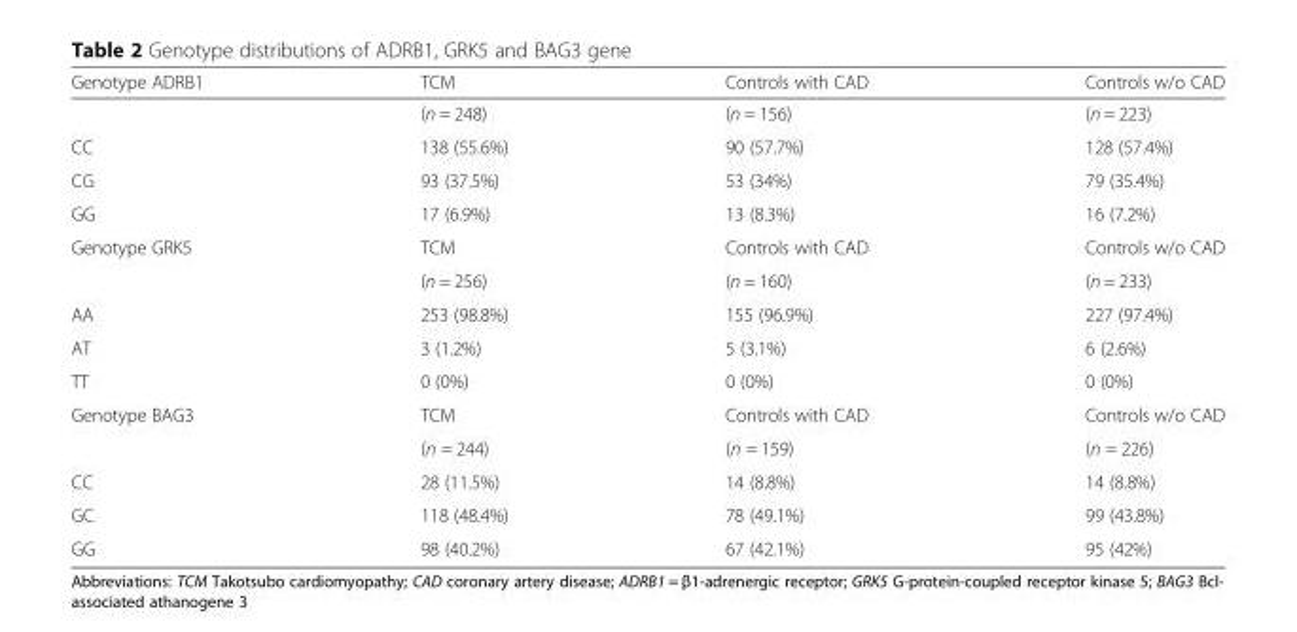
<table><thead><tr><td>Genotype ADRB1</td><td>TCM</td><td>Controls with CAD</td><td>Controls w/o CAD</td></tr></thead><tbody><tr><td></td><td>(n = 248)</td><td>(n = 156)</td><td>(n = 223)</td></tr><tr><td>CC</td><td>138 (55.6%)</td><td>90 (57.7%)</td><td>128 (57.4%)</td></tr><tr><td>CG</td><td>93 (37.5%)</td><td>53 (34%)</td><td>79 (35.4%)</td></tr><tr><td>GG</td><td>17 (6.9%)</td><td>13 (8.3%)</td><td>16 (7.2%)</td></tr><tr><td rowspan="2">Genotype GRK5</td><td>TCM</td><td>Controls with CAD</td><td>Controls w/o CAD</td></tr><tr><td>(n = 256)</td><td>(n = 160)</td><td>(n = 233)</td></tr><tr><td>AA</td><td>253 (98.8%)</td><td>155 (96.9%)</td><td>227 (97.4%)</td></tr><tr><td>AT</td><td>3 (1.2%)</td><td>5 (3.1%)</td><td>6 (2.6%)</td></tr><tr><td>TT</td><td>0 (0%)</td><td>0 (0%)</td><td>0 (0%)</td></tr><tr><td rowspan="2">Genotype BAG3</td><td>TCM</td><td>Controls with CAD</td><td>Controls w/o CAD</td></tr><tr><td>(n = 244)</td><td>(n = 159)</td><td>(n = 226)</td></tr><tr><td>CC</td><td>28 (11.5%)</td><td>14 (8.8%)</td><td>14 (8.8%)</td></tr><tr><td>GC</td><td>118 (48.4%)</td><td>78 (49.1%)</td><td>99 (43.8%)</td></tr><tr><td>GG</td><td>98 (40.2%)</td><td>67 (42.1%)</td><td>95 (42%)</td></tr></tbody></table>